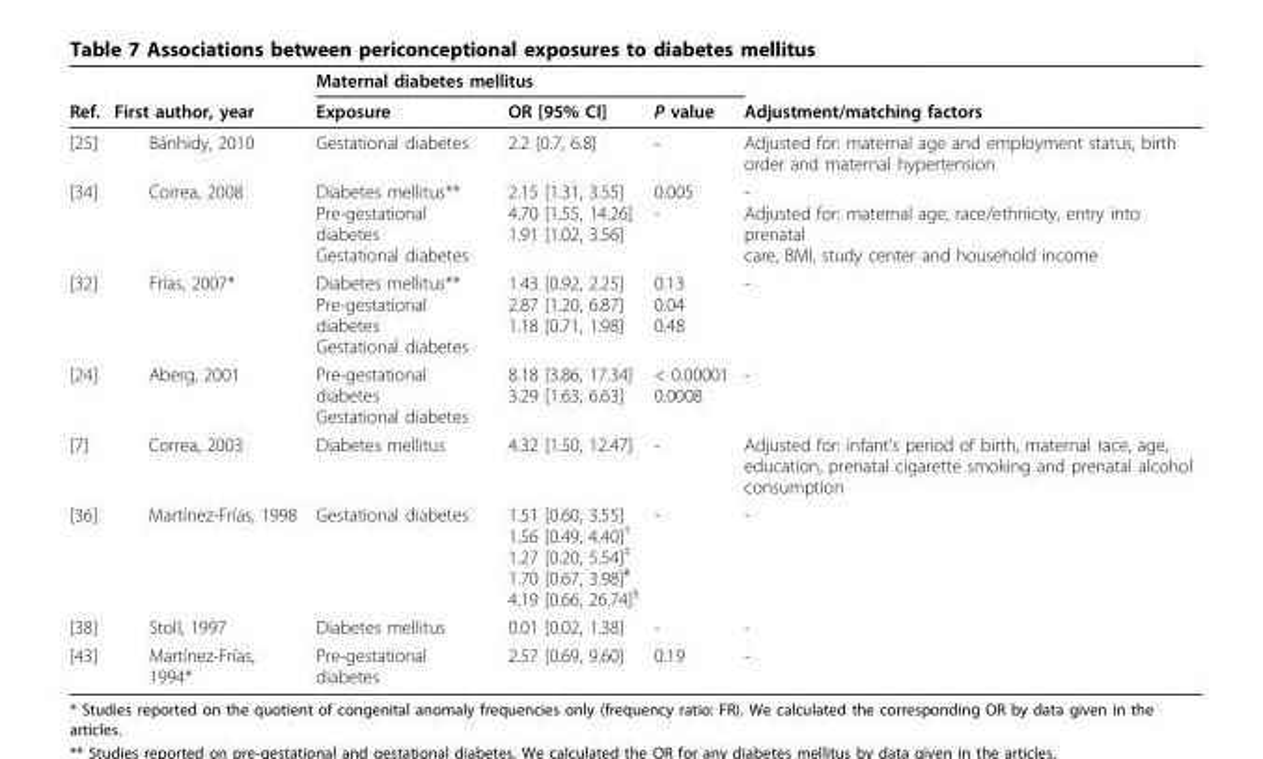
<table><thead><tr><td rowspan="2">Ref.</td><td rowspan="2">First author, year</td><td colspan="3">Maternal diabetes mellitus</td><td rowspan="2">Adjustment/matching factors</td></tr><tr><td>Exposure</td><td>OR [95% CI]</td><td>P value</td></tr></thead><tbody><tr><td>[25]</td><td>Bánhidy, 2010</td><td>Gestational diabetes</td><td>2.2 [0.7, 6.8]</td><td>-</td><td>Adjusted for: maternal age and employment status, birth order and maternal hypertension</td></tr><tr><td>[34]</td><td>Correa, 2008</td><td>Diabetes mellitus** Pre-gestational diabetes Gestational diabetes</td><td>2.15 [1.31, 3.55] 4.70 [1.55, 14.26] 1.91 [1.02, 3.56]</td><td>0.005 -</td><td>- Adjusted for: maternal age, race/ethnicity, entry into prenatal care, BMI, study center and household income</td></tr><tr><td>[32]</td><td>Frías, 2007*</td><td>Diabetes mellitus** Pre-gestational diabetes Gestational diabetes</td><td>1.43 [0.92, 2.25] 2.87 [1.20, 6.87] 1.18 [0.71, 1.98]</td><td>0.13 0.04 0.48</td><td>-</td></tr><tr><td>[24]</td><td>Aberg, 2001</td><td>Pre-gestational diabetes Gestational diabetes</td><td>8.18 [3.86, 17.34] 3.29 [1.63, 6.63]</td><td>&lt; 0.00001 0.0008</td><td>-</td></tr><tr><td>[7]</td><td>Correa, 2003</td><td>Diabetes mellitus</td><td>4.32 [1.50, 12.47]</td><td>-</td><td>Adjusted for: infant’s period of birth, maternal race, age, education, prenatal cigarette smoking and prenatal alcohol consumption</td></tr><tr><td>[36]</td><td>Martínez-Frías, 1998</td><td>Gestational diabetes</td><td>1.51 [0.60, 3.55] 1.56 [0.49, 4.40]<sup>†</sup> 1.27 [0.20, 5.54]<sup>‡</sup> 1.70 [0.67, 3.98]<sup>#</sup> 4.19 [0.66, 26.74]<sup>§</sup></td><td>-</td><td>-</td></tr><tr><td>[38]</td><td>Stoll, 1997</td><td>Diabetes mellitus</td><td>0.01 [0.02, 1.38]</td><td>-</td><td>-</td></tr><tr><td>[43]</td><td>Martínez-Frías, 1994*</td><td>Pre-gestational diabetes</td><td>2.57 [0.69, 9.60]</td><td>0.19</td><td>-</td></tr></tbody></table>